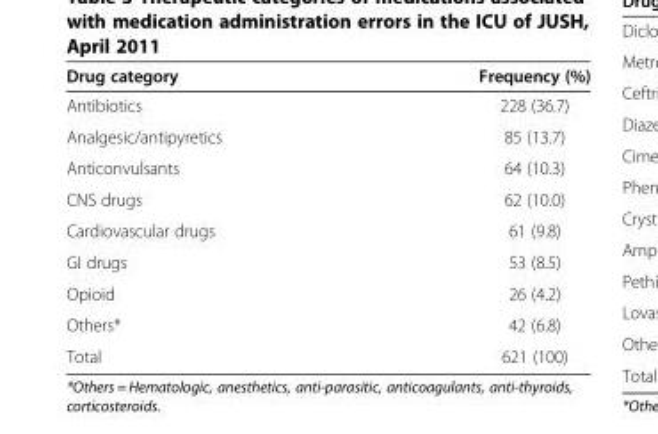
<table><thead><tr><td>Drug category</td><td>Frequency (%)</td></tr></thead><tbody><tr><td>Antibiotics</td><td>228 (36.7)</td></tr><tr><td>Analgesic/antipyretics</td><td>85 (13.7)</td></tr><tr><td>Anticonvulsants</td><td>64 (10.3)</td></tr><tr><td>CNS drugs</td><td>62 (10.0)</td></tr><tr><td>Cardiovascular drugs</td><td>61 (9.8)</td></tr><tr><td>GI drugs</td><td>53 (8.5)</td></tr><tr><td>Opioid</td><td>26 (4.2)</td></tr><tr><td>Others*</td><td>42 (6.8)</td></tr><tr><td>Total</td><td>621 (100)</td></tr></tbody></table>